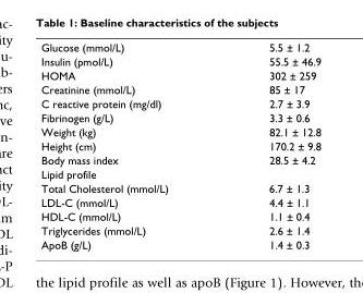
<table><tbody><tr><td>Glucose (mmol/L)</td><td>5.5 ± 1.2</td></tr><tr><td>Insulin (pmol/L)</td><td>55.5 ± 46.9</td></tr><tr><td>HOMA</td><td>302 ± 259</td></tr><tr><td>Creatinine (mmol/L)</td><td>85 ± 17</td></tr><tr><td>C reactive protein (mg/dl)</td><td>2.7 ± 3.9</td></tr><tr><td>Fibrinogen (g/L)</td><td>3.3 ± 0.6</td></tr><tr><td>Weight (kg)</td><td>82.1 ± 12.8</td></tr><tr><td>Height (cm)</td><td>170.2 ± 9.8</td></tr><tr><td>Body mass index</td><td>28.5 ± 4.2</td></tr><tr><td colspan="2">Lipid profile</td></tr><tr><td>Total Cholesterol (mmol/L)</td><td>6.7 ± 1.3</td></tr><tr><td>LDL-C (mmol/L)</td><td>4.4 ± 1.1</td></tr><tr><td>HDL-C (mmol/L)</td><td>1.1 ± 0.4</td></tr><tr><td>Triglycerides (mmol/L)</td><td>2.6 ± 1.4</td></tr><tr><td>ApoB (g/L)</td><td>1.4 ± 0.3</td></tr></tbody></table>